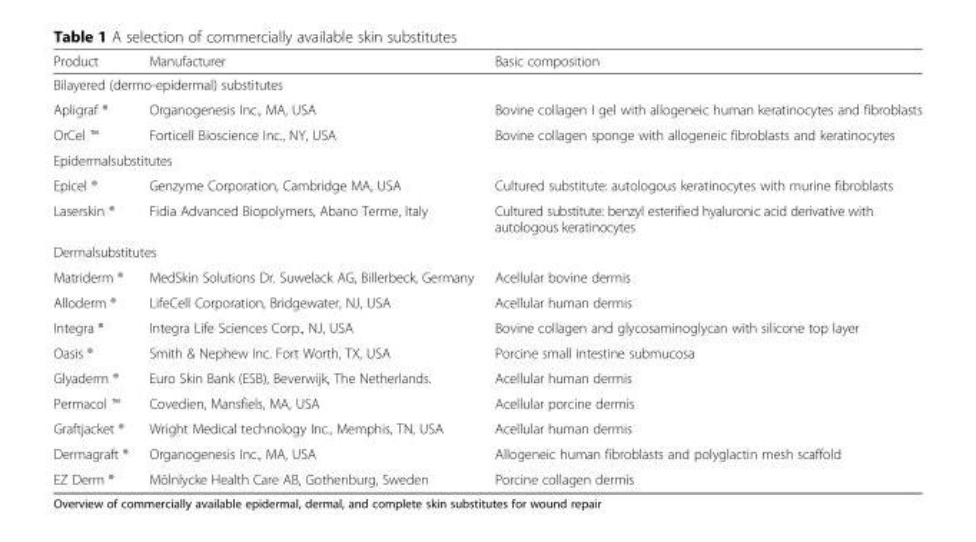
<table><thead><tr><td>Product</td><td>Manufacturer</td><td>Basic composition</td></tr></thead><tbody><tr><td colspan="3">Bilayered (dermo-epidermal) substitutes</td></tr><tr><td>Apligraf ®</td><td>Organogenesis Inc., MA, USA</td><td>Bovine collagen I gel with allogeneic human keratinocytes and fibroblasts</td></tr><tr><td>OrCel ™</td><td>Forticell Bioscience Inc., NY, USA</td><td>Bovine collagen sponge with allogeneic fibroblasts and keratinocytes</td></tr><tr><td colspan="3">Epidermalsubstitutes</td></tr><tr><td>Epicel ®</td><td>Genzyme Corporation, Cambridge MA, USA</td><td>Cultured substitute: autologous keratinocytes with murine fibroblasts</td></tr><tr><td>Laserskin ®</td><td>Fidia Advanced Biopolymers, Abano Terme, Italy</td><td>Cultured substitute: benzyl esterified hyaluronic acid derivative with autologous keratinocytes</td></tr><tr><td colspan="3">Dermalsubstitutes</td></tr><tr><td>Matriderm ®</td><td>MedSkin Solutions Dr. Suwelack AG, Billerbeck, Germany</td><td>Acellular bovine dermis</td></tr><tr><td>Alloderm ®</td><td>LifeCell Corporation, Bridgewater, NJ, USA</td><td>Acellular human dermis</td></tr><tr><td>Integra ®</td><td>Integra Life Sciences Corp., NJ, USA</td><td>Bovine collagen and glycosaminoglycan with silicone top layer</td></tr><tr><td>Oasis ®</td><td>Smith &amp; Nephew Inc. Fort Worth, TX, USA</td><td>Porcine small intestine submucosa</td></tr><tr><td>Glyaderm ®</td><td>Euro Skin Bank (ESB), Beverwijk, The Netherlands.</td><td>Acellular human dermis</td></tr><tr><td>Permacol ™</td><td>Covedien, Mansfiels, MA, USA</td><td>Acellular porcine dermis</td></tr><tr><td>Graftjacket ®</td><td>Wright Medical technology Inc., Memphis, TN, USA</td><td>Acellular human dermis</td></tr><tr><td>Dermagraft ®</td><td>Organogenesis Inc., MA, USA</td><td>Allogeneic human fibroblasts and polyglactin mesh scaffold</td></tr><tr><td>EZ Derm ®</td><td>Mölnlycke Health Care AB, Gothenburg, Sweden</td><td>Porcine collagen dermis</td></tr></tbody></table>